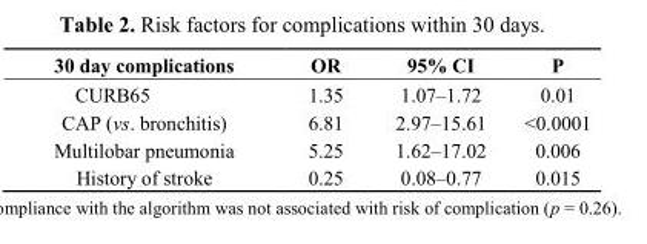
<table><thead><tr><td>30 day complications</td><td>OR</td><td>95% CI</td><td>P</td></tr></thead><tbody><tr><td>CURB65</td><td>1.35</td><td>1.07–1.72</td><td>0.01</td></tr><tr><td>CAP (vs. bronchitis)</td><td>6.81</td><td>2.97–15.61</td><td>&lt;0.0001</td></tr><tr><td>Multilobar pneumonia</td><td>5.25</td><td>1.62–17.02</td><td>0.006</td></tr><tr><td>History of stroke</td><td>0.25</td><td>0.08–0.77</td><td>0.015</td></tr></tbody></table>